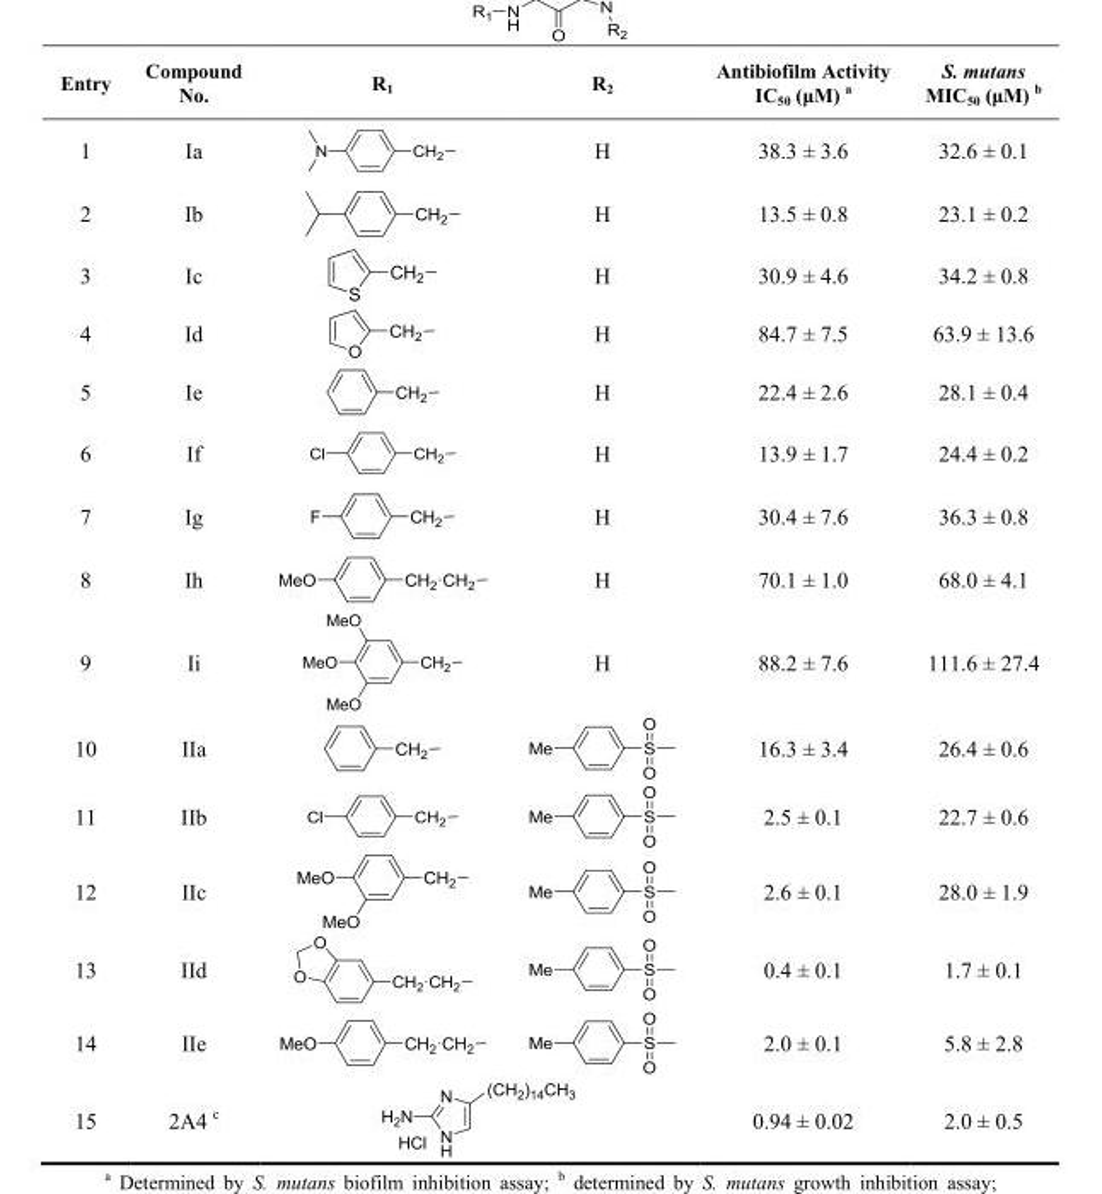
<table><thead><tr><td>Entry</td><td>Compound No.</td><td>R<sub>1</sub></td><td>R<sub>2</sub></td><td>Antibiofilm Activity IC<sub>50</sub> (μM) <sup>a</sup></td><td>S. mutans MIC<sub>50</sub> (μM) <sup>b</sup></td></tr></thead><tbody><tr><td>1</td><td>Ia</td><td></td><td>H</td><td>38.3 ± 3.6</td><td>32.6 ± 0.1</td></tr><tr><td>2</td><td>Ib</td><td></td><td>H</td><td>13.5 ± 0.8</td><td>23.1 ± 0.2</td></tr><tr><td>3</td><td>Ic</td><td></td><td>H</td><td>30.9 ± 4.6</td><td>34.2 ± 0.8</td></tr><tr><td>4</td><td>Id</td><td></td><td>H</td><td>84.7 ± 7.5</td><td>63.9 ± 13.6</td></tr><tr><td>5</td><td>Ie</td><td></td><td>H</td><td>22.4 ± 2.6</td><td>28.1 ± 0.4</td></tr><tr><td>6</td><td>If</td><td></td><td>H</td><td>13.9 ± 1.7</td><td>24.4 ± 0.2</td></tr><tr><td>7</td><td>Ig</td><td></td><td>H</td><td>30.4 ± 7.6</td><td>36.3 ± 0.8</td></tr><tr><td>8</td><td>Ih</td><td></td><td>H</td><td>70.1 ± 1.0</td><td>68.0 ± 4.1</td></tr><tr><td>9</td><td>Ii</td><td></td><td>H</td><td>88.2 ± 7.6</td><td>111.6 ± 27.4</td></tr><tr><td>10</td><td>IIa</td><td></td><td></td><td>16.3 ± 3.4</td><td>26.4 ± 0.6</td></tr><tr><td>11</td><td>IIb</td><td></td><td></td><td>2.5 ± 0.1</td><td>22.7 ± 0.6</td></tr><tr><td>12</td><td>IIc</td><td></td><td></td><td>2.6 ± 0.1</td><td>28.0 ± 1.9</td></tr><tr><td>13</td><td>IId</td><td></td><td></td><td>0.4 ± 0.1</td><td>1.7 ± 0.1</td></tr><tr><td>14</td><td>IIe</td><td></td><td></td><td>2.0 ± 0.1</td><td>5.8 ± 2.8</td></tr><tr><td>15</td><td>2A4 <sup>c</sup></td><td colspan="2"></td><td>0.94 ± 0.02</td><td>2.0 ± 0.5</td></tr></tbody></table>